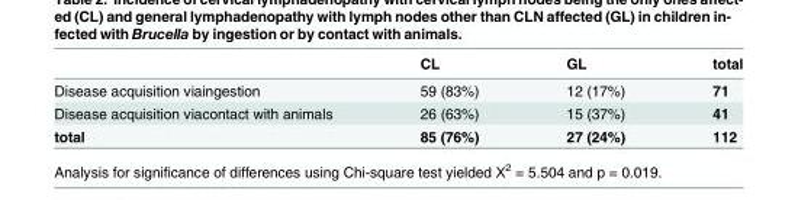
<table><thead><tr><td></td><td>CL</td><td>GL</td><td>total</td></tr></thead><tbody><tr><td>Disease acquisition viaingestion</td><td>59 (83%)</td><td>12 (17%)</td><td>71</td></tr><tr><td>Disease acquisition viacontact with animals</td><td>26 (63%)</td><td>15 (37%)</td><td>41</td></tr><tr><td>total</td><td>85 (76%)</td><td>27 (24%)</td><td>112</td></tr></tbody></table>